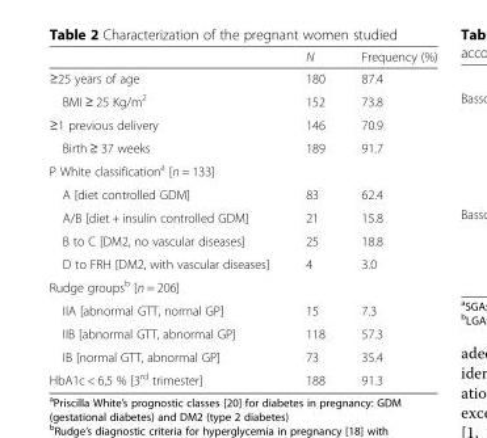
<table><thead><tr><td></td><td>N</td><td>Frequency (%)</td></tr></thead><tbody><tr><td>≥25 years of age</td><td>180</td><td>87.4</td></tr><tr><td>BMI ≥ 25 Kg/m<sup>2</sup></td><td>152</td><td>73.8</td></tr><tr><td>≥1 previous delivery</td><td>146</td><td>70.9</td></tr><tr><td>Birth ≥ 37 weeks</td><td>189</td><td>91.7</td></tr><tr><td colspan="3">P White classification<sup>a</sup> [n = 133]</td></tr><tr><td>A [diet controlled GDM]</td><td>83</td><td>62.4</td></tr><tr><td>A/B [diet + insulin controlled GDM]</td><td>21</td><td>15.8</td></tr><tr><td>B to C [DM2, no vascular diseases]</td><td>25</td><td>18.8</td></tr><tr><td>D to FRH [DM2, with vascular diseases]</td><td>4</td><td>3.0</td></tr><tr><td colspan="3">Rudge groups<sup>b</sup> [n = 206]</td></tr><tr><td>IIA [abnormal GTT, normal GP]</td><td>15</td><td>7.3</td></tr><tr><td>IIB [abnormal GTT, abnormal GP]</td><td>118</td><td>57.3</td></tr><tr><td>IB [normal GTT, abnormal GP]</td><td>73</td><td>35.4</td></tr><tr><td>HbA1c &lt; 6,5 % [3<sup>rd</sup> trimester]</td><td>188</td><td>91.3</td></tr></tbody></table>